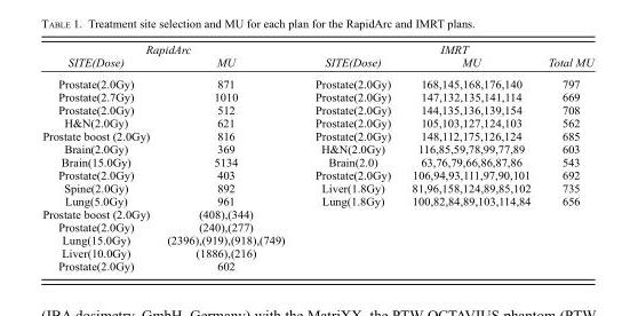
<table><thead><tr><td colspan="2">RapidArc</td><td colspan="3">IMRT</td></tr><tr><td>SITE(Dose)</td><td>MU</td><td>SITE(Dose)</td><td>MU</td><td>Total MU</td></tr></thead><tbody><tr><td>Prostate(2.0Gy)</td><td>871</td><td>Prostate(2.0Gy)</td><td>168,145,168,176,140</td><td>797</td></tr><tr><td>Prostate(2.7Gy)</td><td>1010</td><td>Prostate(2.0Gy)</td><td>147,132,135,141,114</td><td>669</td></tr><tr><td>Prostate(2.0Gy)</td><td>512</td><td>Prostate(2.0Gy)</td><td>144,135,136,139,154</td><td>708</td></tr><tr><td>H&amp;N(2.0Gy)</td><td>621</td><td>Prostate(2.0Gy)</td><td>105,103,127,124,103</td><td>562</td></tr><tr><td>Prostate boost (2.0Gy)</td><td>816</td><td>Prostate(2.0Gy)</td><td>148,112,175,126,124</td><td>685</td></tr><tr><td>Brain(2.0Gy)</td><td>369</td><td>H&amp;N(2.0Gy)</td><td>116,85,59,78,99,77,89</td><td>603</td></tr><tr><td>Brain(15.0Gy)</td><td>5134</td><td>Brain(2.0)</td><td>63,76,79,66,86,87,86</td><td>543</td></tr><tr><td>Prostate(2.0Gy)</td><td>403</td><td>Prostate(2.0Gy)</td><td>106,94,93,111,97,90,101</td><td>692</td></tr><tr><td>Spine(2.0Gy)</td><td>892</td><td>Liver(1.8Gy)</td><td>81,96,158,124,89,85,102</td><td>735</td></tr><tr><td>Lung(5.0Gy)</td><td>961</td><td>Lung(1.8Gy)</td><td>100,82,84,89,103,114,84</td><td>656</td></tr><tr><td>Prostate boost (2.0Gy)</td><td>(408),(344)</td><td></td><td></td><td></td></tr><tr><td>Prostate(2.0Gy)</td><td>(240),(277)</td><td></td><td></td><td></td></tr><tr><td>Lung(15.0Gy)</td><td>(2396),(919),(918),(749)</td><td></td><td></td><td></td></tr><tr><td>Liver(10.0Gy)</td><td>(1886),(216)</td><td></td><td></td><td></td></tr><tr><td>Prostate(2.0Gy)</td><td>602</td><td></td><td></td><td></td></tr></tbody></table>